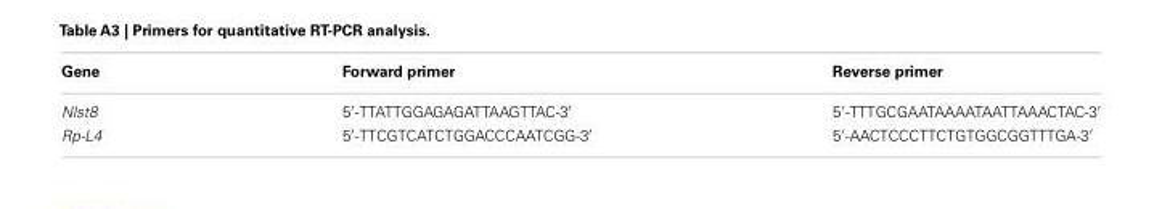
<table><thead><tr><td>Gene</td><td>Forward primer</td><td>Reverse primer</td></tr></thead><tbody><tr><td>Nlst8</td><td>5′-TTATTGGAGAGATTAAGTTAC-3′</td><td>5′-TTTGCGAATAAAATAATTAAACTAC-3′</td></tr><tr><td>Rp-L4</td><td>5′-TTCGTCATCTGGACCCAATCGG-3′</td><td>5′-AACTCCCTTCTGTGGCGGTTTGA-3′</td></tr></tbody></table>